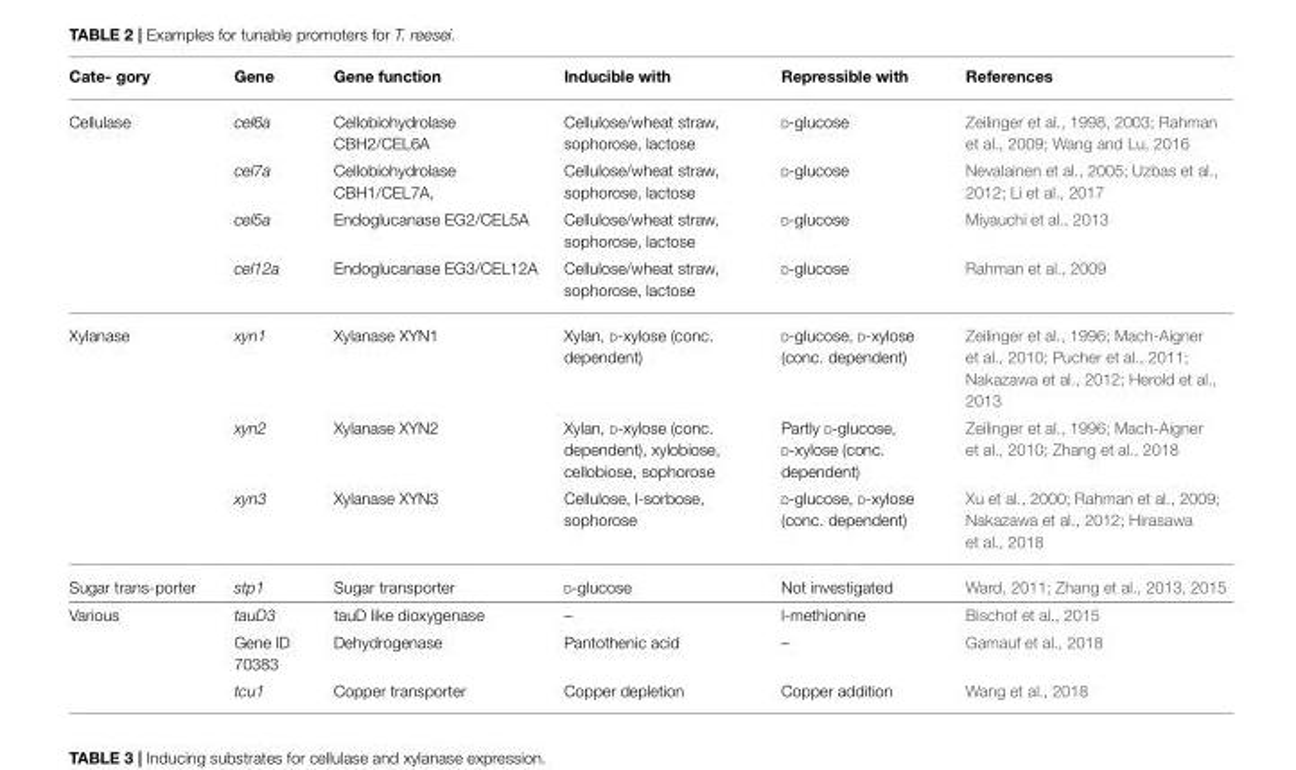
<table><thead><tr><td>Cate- gory</td><td>Gene</td><td>Gene function</td><td>Inducible with</td><td>Repressible with</td><td>References</td></tr></thead><tbody><tr><td rowspan="4">Cellulase</td><td>cel6a</td><td>Cellobiohydrolase CBH2/CEL6A</td><td>Cellulose/wheat straw, sophorose, lactose</td><td>D-glucose</td><td>Zeilinger et al., 1998, 2003; Rahman et al., 2009; Wang and Lu, 2016</td></tr><tr><td>cel7a</td><td>Cellobiohydrolase CBH1/CEL7A,</td><td>Cellulose/wheat straw, sophorose, lactose</td><td>D-glucose</td><td>Nevalainen et al., 2005; Uzbas et al., 2012; Li et al., 2017</td></tr><tr><td>cel5a</td><td>Endoglucanase EG2/CEL5A</td><td>Cellulose/wheat straw, sophorose, lactose</td><td>D-glucose</td><td>Miyauchi et al., 2013</td></tr><tr><td>cel12a</td><td>Endoglucanase EG3/CEL12A</td><td>Cellulose/wheat straw, sophorose, lactose</td><td>D-glucose</td><td>Rahman et al., 2009</td></tr><tr><td rowspan="3">Xylanase</td><td>xyn1</td><td>Xylanase XYN1</td><td>Xylan, D-xylose (conc. dependent)</td><td>D-glucose, D-xylose (conc. dependent)</td><td>Zeilinger et al., 1996; Mach-Aigner et al., 2010; Pucher et al., 2011; Nakazawa et al., 2012; Herold et al., 2013</td></tr><tr><td>xyn2</td><td>Xylanase XYN2</td><td>Xylan, D-xylose (conc. dependent), xylobiose, cellobiose, sophorose</td><td>Partly D-glucose, D-xylose (conc. dependent)</td><td>Zeilinger et al., 1996; Mach-Aigner et al., 2010; Zhang et al., 2018</td></tr><tr><td>xyn3</td><td>Xylanase XYN3</td><td>Cellulose, l-sorbose, sophorose</td><td>D-glucose, D-xylose (conc. dependent)</td><td>Xu et al., 2000; Rahman et al., 2009; Nakazawa et al., 2012; Hirasawa et al., 2018</td></tr><tr><td>Sugar trans-porter</td><td>stp1</td><td>Sugar transporter</td><td>D-glucose</td><td>Not investigated</td><td>Ward, 2011; Zhang et al., 2013, 2015</td></tr><tr><td rowspan="3">Various</td><td>tauD3</td><td>tauD like dioxygenase</td><td>–</td><td>l-methionine</td><td>Bischof et al., 2015</td></tr><tr><td>Gene ID 70383</td><td>Dehydrogenase</td><td>Pantothenic acid</td><td>–</td><td>Gamauf et al., 2018</td></tr><tr><td>tcu1</td><td>Copper transporter</td><td>Copper depletion</td><td>Copper addition</td><td>Wang et al., 2018</td></tr></tbody></table>